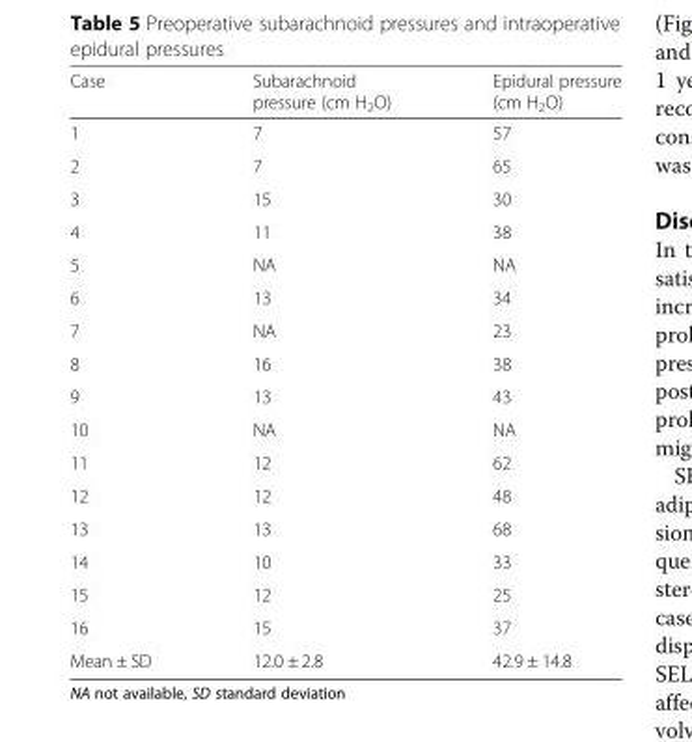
<table><thead><tr><td>Case</td><td>Subarachnoid pressure (cm H<sub>2</sub>O)</td><td>Epidural pressure (cm H<sub>2</sub>O)</td></tr></thead><tbody><tr><td>1</td><td>7</td><td>57</td></tr><tr><td>2</td><td>7</td><td>65</td></tr><tr><td>3</td><td>15</td><td>30</td></tr><tr><td>4</td><td>11</td><td>38</td></tr><tr><td>5</td><td>NA</td><td>NA</td></tr><tr><td>6</td><td>13</td><td>34</td></tr><tr><td>7</td><td>NA</td><td>23</td></tr><tr><td>8</td><td>16</td><td>38</td></tr><tr><td>9</td><td>13</td><td>43</td></tr><tr><td>10</td><td>NA</td><td>NA</td></tr><tr><td>11</td><td>12</td><td>62</td></tr><tr><td>12</td><td>12</td><td>48</td></tr><tr><td>13</td><td>13</td><td>68</td></tr><tr><td>14</td><td>10</td><td>33</td></tr><tr><td>15</td><td>12</td><td>25</td></tr><tr><td>16</td><td>15</td><td>37</td></tr><tr><td>Mean ± SD</td><td>12.0 ± 2.8</td><td>42.9 ± 14.8</td></tr></tbody></table>